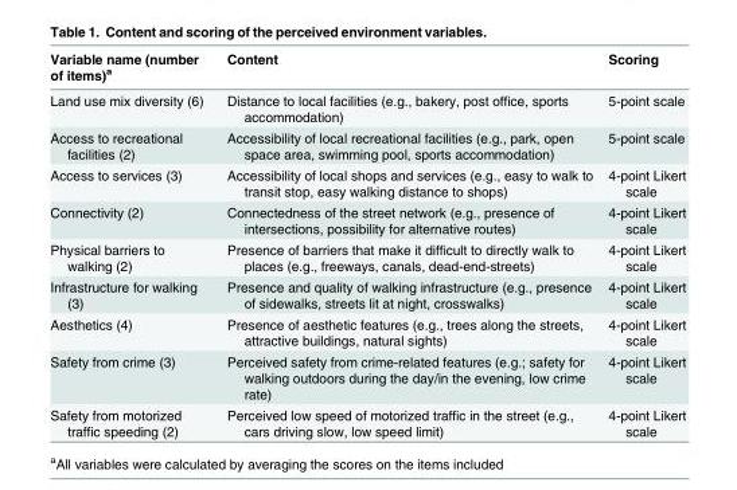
<table><thead><tr><td>Variable name (number of items)<sup>a</sup></td><td>Content</td><td>Scoring</td></tr></thead><tbody><tr><td>Land use mix diversity (6)</td><td>Distance to local facilities (e.g., bakery, post office, sports accommodation)</td><td>5-point scale</td></tr><tr><td>Access to recreational facilities (2)</td><td>Accessibility of local recreational facilities (e.g., park, open space area, swimming pool, sports accommodation)</td><td>5-point scale</td></tr><tr><td>Access to services (3)</td><td>Accessibility of local shops and services (e.g., easy to walk to transit stop, easy walking distance to shops)</td><td>4-point Likert scale</td></tr><tr><td>Connectivity (2)</td><td>Connectedness of the street network (e.g., presence of intersections, possibility for alternative routes)</td><td>4-point Likert scale</td></tr><tr><td>Physical barriers to walking (2)</td><td>Presence of barriers that make it difficult to directly walk to places (e.g., freeways, canals, dead-end-streets)</td><td>4-point Likert scale</td></tr><tr><td>Infrastructure for walking (3)</td><td>Presence and quality of walking infrastructure (e.g., presence of sidewalks, streets lit at night, crosswalks)</td><td>4-point Likert scale</td></tr><tr><td>Aesthetics (4)</td><td>Presence of aesthetic features (e.g., trees along the streets, attractive buildings, natural sights)</td><td>4-point Likert scale</td></tr><tr><td>Safety from crime (3)</td><td>Perceived safety from crime-related features (e.g.; safety for walking outdoors during the day/in the evening, low crime rate)</td><td>4-point Likert scale</td></tr><tr><td>Safety from motorized traffic speeding (2)</td><td>Perceived low speed of motorized traffic in the street (e.g., cars driving slow, low speed limit)</td><td>4-point Likert scale</td></tr></tbody></table>